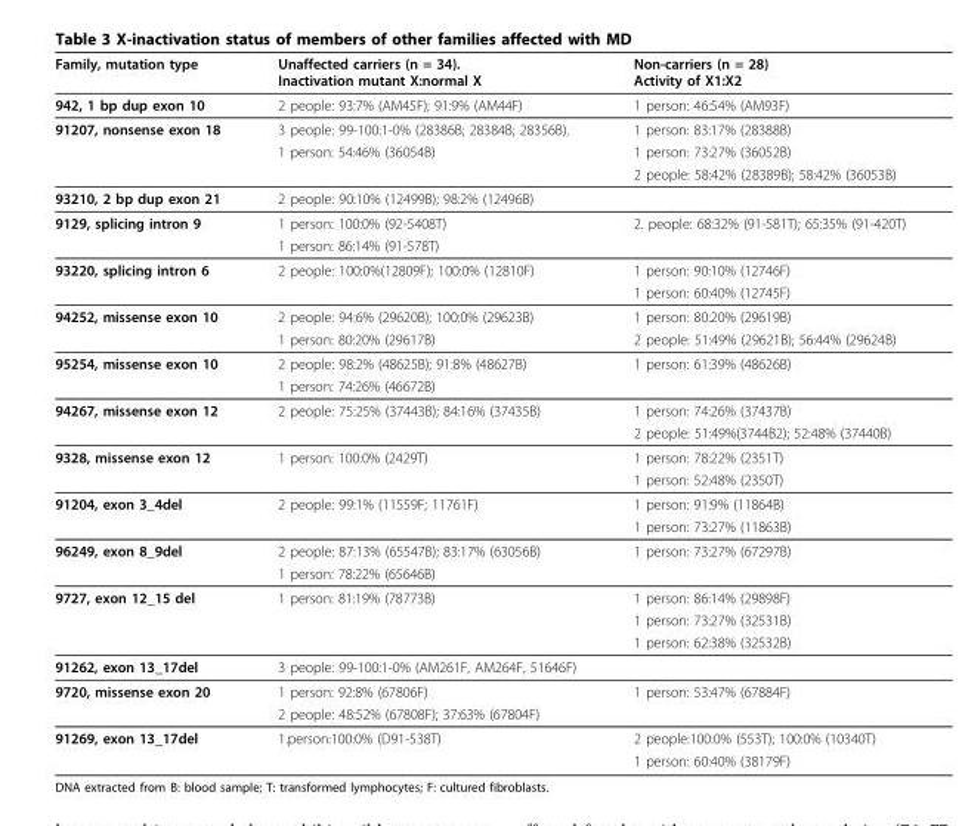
<table><thead><tr><td>Family, mutation type</td><td>Unaffected carriers (n = 34). Inactivation mutant X:normal X</td><td>Non-carriers (n = 28) Activity of X1:X2</td></tr></thead><tbody><tr><td>942, 1 bp dup exon 10</td><td>2 people: 93:7% (AM45F); 91:9% (AM44F)</td><td>1 person: 46:54% (AM93F)</td></tr><tr><td rowspan="3">91207, nonsense exon 18</td><td>3 people: 99-100:1-0% (28386B; 28384B; 28356B).</td><td>1 person: 83:17% (28388B)</td></tr><tr><td>1 person: 54:46% (36054B)</td><td>1 person: 73:27% (36052B)</td></tr><tr><td></td><td>2 people: 58:42% (28389B); 58:42% (36053B)</td></tr><tr><td>93210, 2 bp dup exon 21</td><td>2 people: 90:10% (12499B); 98:2% (12496B)</td><td></td></tr><tr><td rowspan="2">9129, splicing intron 9</td><td>1 person: 100:0% (92-5408T)</td><td>2. people: 68:32% (91-581T); 65:35% (91-420T)</td></tr><tr><td>1 person: 86:14% (91-578T)</td><td></td></tr><tr><td rowspan="2">93220, splicing intron 6</td><td>2 people: 100:0%(12809F); 100:0% (12810F)</td><td>1 person: 90:10% (12746F)</td></tr><tr><td></td><td>1 person: 60:40% (12745F)</td></tr><tr><td rowspan="2">94252, missense exon 10</td><td>2 people: 94:6% (29620B); 100:0% (29623B)</td><td>1 person: 80:20% (29619B)</td></tr><tr><td>1 person: 80:20% (29617B)</td><td>2 people: 51:49% (29621B); 56:44% (29624B)</td></tr><tr><td rowspan="2">95254, missense exon 10</td><td>2 people: 98:2% (48625B); 91:8% (48627B)</td><td>1 person: 61:39% (48626B)</td></tr><tr><td>1 person: 74:26% (46672B)</td><td></td></tr><tr><td rowspan="2">94267, missense exon 12</td><td>2 people: 75:25% (37443B); 84:16% (37435B)</td><td>1 person: 74:26% (37437B)</td></tr><tr><td></td><td>2 people: 51:49%(3744B2); 52:48% (37440B)</td></tr><tr><td rowspan="2">9328, missense exon 12</td><td>1 person: 100:0% (2429T)</td><td>1 person: 78:22% (2351T)</td></tr><tr><td></td><td>1 person: 52:48% (2350T)</td></tr><tr><td rowspan="2">91204, exon 3_4del</td><td>2 people: 99:1% (11559F; 11761F)</td><td>1 person: 91:9% (11864B)</td></tr><tr><td></td><td>1 person: 73:27% (11863B)</td></tr><tr><td rowspan="2">96249, exon 8_9del</td><td>2 people: 87:13% (65547B); 83:17% (63056B)</td><td>1 person: 73:27% (67297B)</td></tr><tr><td>1 person: 78:22% (65646B)</td><td></td></tr><tr><td rowspan="3">9727, exon 12_15 del</td><td>1 person: 81:19% (78773B)</td><td>1 person: 86:14% (29898F)</td></tr><tr><td></td><td>1 person: 73:27% (32531B)</td></tr><tr><td></td><td>1 person: 62:38% (32532B)</td></tr><tr><td>91262, exon 13_17del</td><td>3 people: 99-100:1-0% (AM261F, AM264F, 51646F)</td><td></td></tr><tr><td rowspan="2">9720, missense exon 20</td><td>1 person: 92:8% (67806F)</td><td>1 person: 53:47% (67884F)</td></tr><tr><td>2 people: 48:52% (67808F); 37:63% (67804F)</td><td></td></tr><tr><td rowspan="2">91269, exon 13_17del</td><td>1.person:100:0% (D91-538T)</td><td>2 people:100:0% (553T); 100:0% (10340T)</td></tr><tr><td></td><td>1 person: 60:40% (38179F)</td></tr></tbody></table>